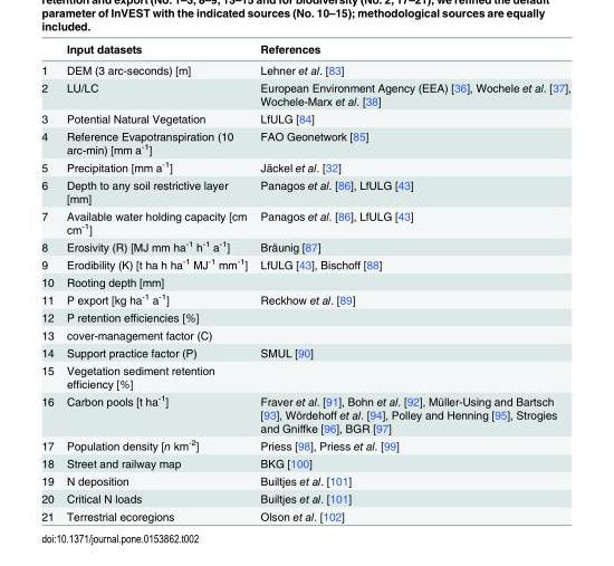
<table><thead><tr><td></td><td>Input datasets</td><td>References</td></tr></thead><tbody><tr><td>1</td><td>DEM (3 arc-seconds) [m]</td><td>Lehner et al. [83]</td></tr><tr><td>2</td><td>LU/LC</td><td>European Environment Agency (EEA) [36], Wochele et al. [37], Wochele-Marx et al. [38]</td></tr><tr><td>3</td><td>Potential Natural Vegetation</td><td>LfULG [84]</td></tr><tr><td>4</td><td>Reference Evapotranspiration (10 arc-min) [mm a<sup>-1</sup>]</td><td>FAO Geonetwork [85]</td></tr><tr><td>5</td><td>Precipitation [mm a<sup>-1</sup>]</td><td>Jäckel et al. [32]</td></tr><tr><td>6</td><td>Depth to any soil restrictive layer [mm]</td><td>Panagos et al. [86], LfULG [43]</td></tr><tr><td>7</td><td>Available water holding capacity [cm cm<sup>-1</sup>]</td><td>Panagos et al. [86], LfULG [43]</td></tr><tr><td>8</td><td>Erosivity (R) [MJ mm ha<sup>-1</sup> h<sup>-1</sup> a<sup>-1</sup>]</td><td>Bräunig [87]</td></tr><tr><td>9</td><td>Erodibility (K) [t ha h ha<sup>-1</sup> MJ<sup>-1</sup> mm<sup>-1</sup>]</td><td>LfULG [43], Bischoff [88]</td></tr><tr><td>10</td><td>Rooting depth [mm]</td><td></td></tr><tr><td>11</td><td>P export [kg ha<sup>-1</sup> a<sup>-1</sup>]</td><td>Reckhow et al. [89]</td></tr><tr><td>12</td><td>P retention efficiencies [%]</td><td></td></tr><tr><td>13</td><td>cover-management factor (C)</td><td></td></tr><tr><td>14</td><td>Support practice factor (P)</td><td>SMUL [90]</td></tr><tr><td>15</td><td>Vegetation sediment retention efficiency [%]</td><td></td></tr><tr><td>16</td><td>Carbon pools [t ha<sup>-1</sup>]</td><td>Fraver et al. [91], Bohn et al. [92], Müller-Using and Bartsch [93], Wördehoff et al. [94], Polley and Henning [95], Strogies and Gniffke [96], BGR [97]</td></tr><tr><td>17</td><td>Population density [n km<sup>-2</sup>]</td><td>Priess [98], Priess et al. [99]</td></tr><tr><td>18</td><td>Street and railway map</td><td>BKG [100]</td></tr><tr><td>19</td><td>N deposition</td><td>Builtjes et al. [101]</td></tr><tr><td>20</td><td>Critical N loads</td><td>Builtjes et al. [101]</td></tr><tr><td>21</td><td>Terrestrial ecoregions</td><td>Olson et al. [102]</td></tr></tbody></table>